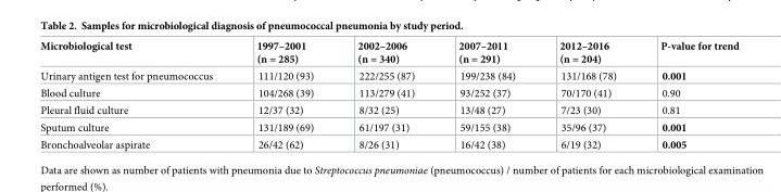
<table><thead><tr><td>Microbiological test</td><td>1997–2001 (n = 285)</td><td>2002–2006 (n = 340)</td><td>2007–2011 (n = 291)</td><td>2012–2016 (n = 204)</td><td>P-value for trend</td></tr></thead><tbody><tr><td>Urinary antigen test for pneumococcus</td><td>111/120 (93)</td><td>222/255 (87)</td><td>199/238 (84)</td><td>131/168 (78)</td><td>0.001</td></tr><tr><td>Blood culture</td><td>104/268 (39)</td><td>113/279 (41)</td><td>93/252 (37)</td><td>70/170 (41)</td><td>0.90</td></tr><tr><td>Pleural fluid culture</td><td>12/37 (32)</td><td>8/32 (25)</td><td>13/48 (27)</td><td>7/23 (30)</td><td>0.81</td></tr><tr><td>Sputum culture</td><td>131/189 (69)</td><td>61/197 (31)</td><td>59/155 (38)</td><td>35/96 (37)</td><td>0.001</td></tr><tr><td>Bronchoalveolar aspirate</td><td>26/42 (62)</td><td>8/26 (31)</td><td>16/42 (38)</td><td>6/19 (32)</td><td>0.005</td></tr></tbody></table>